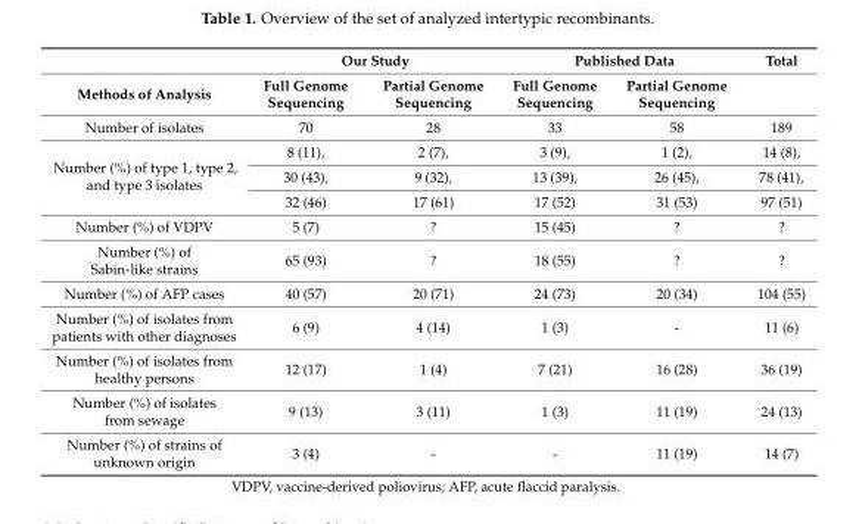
<table><thead><tr><td rowspan="2">Methods of Analysis</td><td colspan="2">Our Study</td><td colspan="2">Published Data</td><td rowspan="2">Total</td></tr><tr><td>Full Genome Sequencing</td><td>Partial Genome Sequencing</td><td>Full Genome Sequencing</td><td>Partial Genome Sequencing</td></tr></thead><tbody><tr><td>Number of isolates</td><td>70</td><td>28</td><td>33</td><td>58</td><td>189</td></tr><tr><td rowspan="3">Number (%) of type 1, type 2, and type 3 isolates</td><td>8 (11),</td><td>2 (7),</td><td>3 (9),</td><td>1 (2),</td><td>14 (8),</td></tr><tr><td>30 (43),</td><td>9 (32),</td><td>13 (39),</td><td>26 (45),</td><td>78 (41),</td></tr><tr><td>32 (46)</td><td>17 (61)</td><td>17 (52)</td><td>31 (53)</td><td>97 (51)</td></tr><tr><td>Number (%) of VDPV</td><td>5 (7)</td><td>?</td><td>15 (45)</td><td>?</td><td>?</td></tr><tr><td>Number (%) of Sabin-like strains</td><td>65 (93)</td><td>?</td><td>18 (55)</td><td>?</td><td>?</td></tr><tr><td>Number (%) of AFP cases</td><td>40 (57)</td><td>20 (71)</td><td>24 (73)</td><td>20 (34)</td><td>104 (55)</td></tr><tr><td>Number (%) of isolates from patients with other diagnoses</td><td>6 (9)</td><td>4 (14)</td><td>1 (3)</td><td>-</td><td>11 (6)</td></tr><tr><td>Number (%) of isolates from healthy persons</td><td>12 (17)</td><td>1 (4)</td><td>7 (21)</td><td>16 (28)</td><td>36 (19)</td></tr><tr><td>Number (%) of isolates from sewage</td><td>9 (13)</td><td>3 (11)</td><td>1 (3)</td><td>11 (19)</td><td>24 (13)</td></tr><tr><td>Number (%) of strains of unknown origin</td><td>3 (4)</td><td>-</td><td>-</td><td>11 (19)</td><td>14 (7)</td></tr></tbody></table>